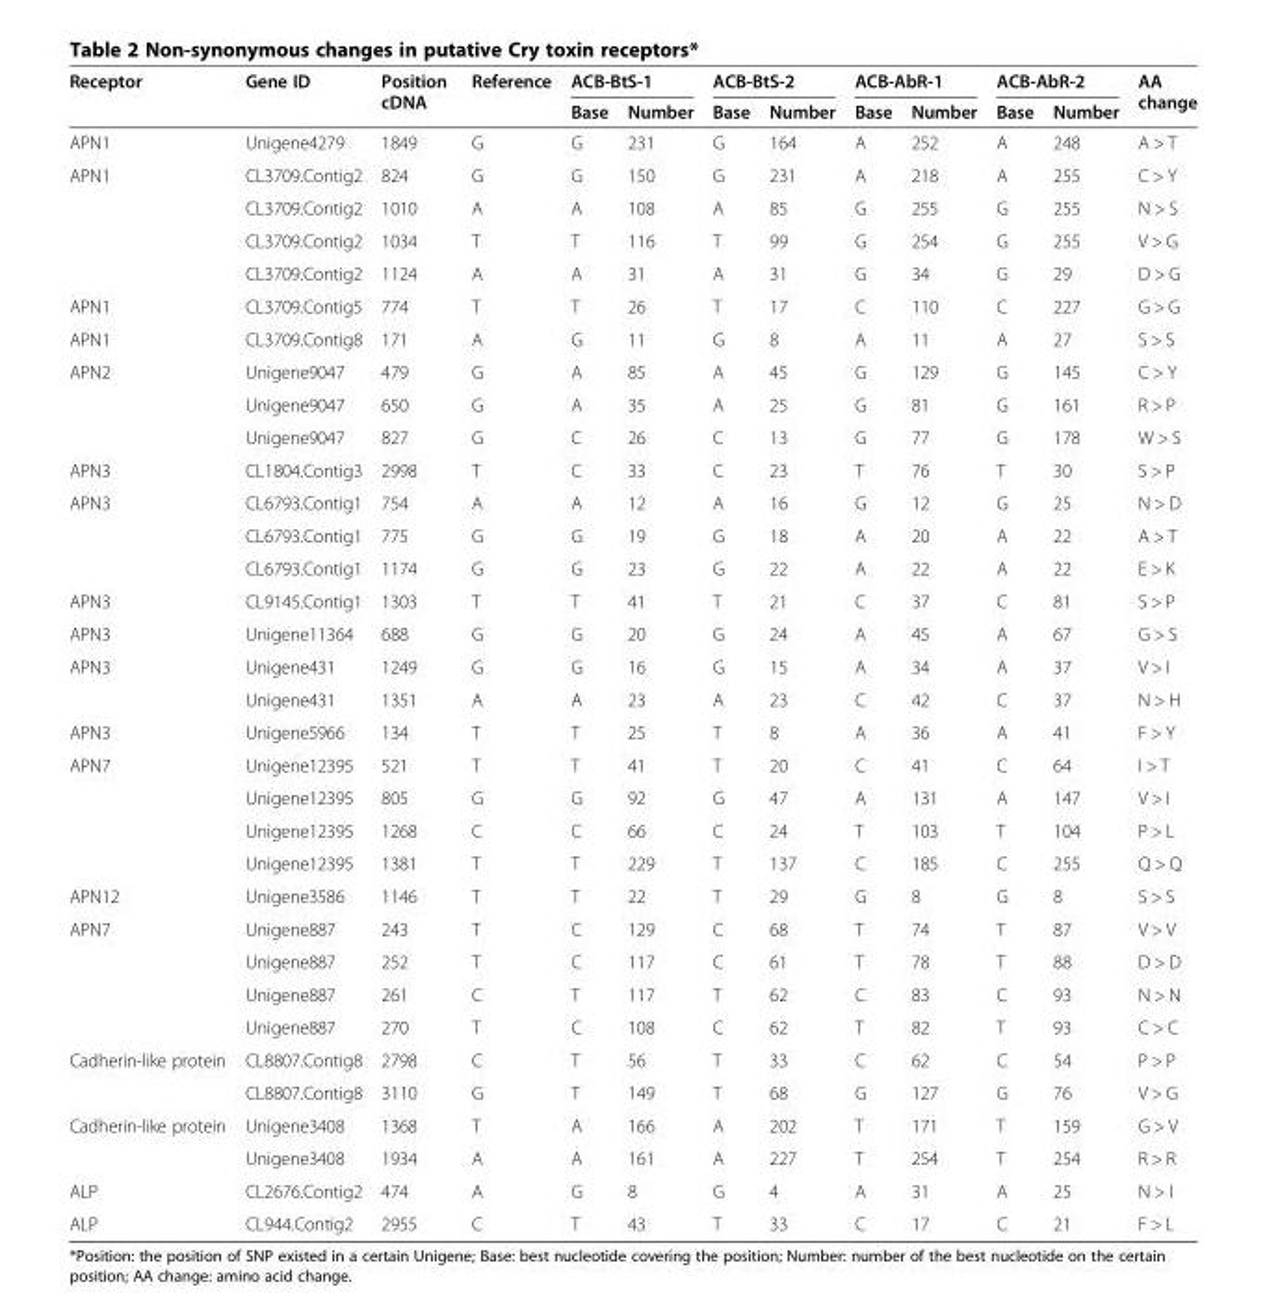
<table><thead><tr><td rowspan="2">Receptor</td><td rowspan="2">Gene ID</td><td rowspan="2">Position cDNA</td><td rowspan="2">Reference</td><td colspan="2">ACB-BtS-1</td><td colspan="2">ACB-BtS-2</td><td colspan="2">ACB-AbR-1</td><td colspan="2">ACB-AbR-2</td><td rowspan="2">AA change</td></tr><tr><td>Base</td><td>Number</td><td>Base</td><td>Number</td><td>Base</td><td>Number</td><td>Base</td><td>Number</td></tr></thead><tbody><tr><td>APN1</td><td>Unigene4279</td><td>1849</td><td>G</td><td>G</td><td>231</td><td>G</td><td>164</td><td>A</td><td>252</td><td>A</td><td>248</td><td>A &gt; T</td></tr><tr><td rowspan="4">APN1</td><td>CL3709.Contig2</td><td>824</td><td>G</td><td>G</td><td>150</td><td>G</td><td>231</td><td>A</td><td>218</td><td>A</td><td>255</td><td>C &gt; Y</td></tr><tr><td>CL3709.Contig2</td><td>1010</td><td>A</td><td>A</td><td>108</td><td>A</td><td>85</td><td>G</td><td>255</td><td>G</td><td>255</td><td>N &gt; S</td></tr><tr><td>CL3709.Contig2</td><td>1034</td><td>T</td><td>T</td><td>116</td><td>T</td><td>99</td><td>G</td><td>254</td><td>G</td><td>255</td><td>V &gt; G</td></tr><tr><td>CL3709.Contig2</td><td>1124</td><td>A</td><td>A</td><td>31</td><td>A</td><td>31</td><td>G</td><td>34</td><td>G</td><td>29</td><td>D &gt; G</td></tr><tr><td>APN1</td><td>CL3709.Contig5</td><td>774</td><td>T</td><td>T</td><td>26</td><td>T</td><td>17</td><td>C</td><td>110</td><td>C</td><td>227</td><td>G &gt; G</td></tr><tr><td>APN1</td><td>CL3709.Contig8</td><td>171</td><td>A</td><td>G</td><td>11</td><td>G</td><td>8</td><td>A</td><td>11</td><td>A</td><td>27</td><td>S &gt; S</td></tr><tr><td rowspan="3">APN2</td><td>Unigene9047</td><td>479</td><td>G</td><td>A</td><td>85</td><td>A</td><td>45</td><td>G</td><td>129</td><td>G</td><td>145</td><td>C &gt; Y</td></tr><tr><td>Unigene9047</td><td>650</td><td>G</td><td>A</td><td>35</td><td>A</td><td>25</td><td>G</td><td>81</td><td>G</td><td>161</td><td>R &gt; P</td></tr><tr><td>Unigene9047</td><td>827</td><td>G</td><td>C</td><td>26</td><td>C</td><td>13</td><td>G</td><td>77</td><td>G</td><td>178</td><td>W &gt; S</td></tr><tr><td>APN3</td><td>CL1804.Contig3</td><td>2998</td><td>T</td><td>C</td><td>33</td><td>C</td><td>23</td><td>T</td><td>76</td><td>T</td><td>30</td><td>S &gt; P</td></tr><tr><td rowspan="3">APN3</td><td>CL6793.Contig1</td><td>754</td><td>A</td><td>A</td><td>12</td><td>A</td><td>16</td><td>G</td><td>12</td><td>G</td><td>25</td><td>N &gt; D</td></tr><tr><td>CL6793.Contig1</td><td>775</td><td>G</td><td>G</td><td>19</td><td>G</td><td>18</td><td>A</td><td>20</td><td>A</td><td>22</td><td>A &gt; T</td></tr><tr><td>CL6793.Contig1</td><td>1174</td><td>G</td><td>G</td><td>23</td><td>G</td><td>22</td><td>A</td><td>22</td><td>A</td><td>22</td><td>E &gt; K</td></tr><tr><td>APN3</td><td>CL9145.Contig1</td><td>1303</td><td>T</td><td>T</td><td>41</td><td>T</td><td>21</td><td>C</td><td>37</td><td>C</td><td>81</td><td>S &gt; P</td></tr><tr><td>APN3</td><td>Unigene11364</td><td>688</td><td>G</td><td>G</td><td>20</td><td>G</td><td>24</td><td>A</td><td>45</td><td>A</td><td>67</td><td>G &gt; S</td></tr><tr><td rowspan="2">APN3</td><td>Unigene431</td><td>1249</td><td>G</td><td>G</td><td>16</td><td>G</td><td>15</td><td>A</td><td>34</td><td>A</td><td>37</td><td>V &gt; I</td></tr><tr><td>Unigene431</td><td>1351</td><td>A</td><td>A</td><td>23</td><td>A</td><td>23</td><td>C</td><td>42</td><td>C</td><td>37</td><td>N &gt; H</td></tr><tr><td>APN3</td><td>Unigene5966</td><td>134</td><td>T</td><td>T</td><td>25</td><td>T</td><td>8</td><td>A</td><td>36</td><td>A</td><td>41</td><td>F &gt; Y</td></tr><tr><td rowspan="4">APN7</td><td>Unigene12395</td><td>521</td><td>T</td><td>T</td><td>41</td><td>T</td><td>20</td><td>C</td><td>41</td><td>C</td><td>64</td><td>I &gt; T</td></tr><tr><td>Unigene12395</td><td>805</td><td>G</td><td>G</td><td>92</td><td>G</td><td>47</td><td>A</td><td>131</td><td>A</td><td>147</td><td>V &gt; I</td></tr><tr><td>Unigene12395</td><td>1268</td><td>C</td><td>C</td><td>66</td><td>C</td><td>24</td><td>T</td><td>103</td><td>T</td><td>104</td><td>P &gt; L</td></tr><tr><td>Unigene12395</td><td>1381</td><td>T</td><td>T</td><td>229</td><td>T</td><td>137</td><td>C</td><td>185</td><td>C</td><td>255</td><td>Q &gt; Q</td></tr><tr><td>APN12</td><td>Unigene3586</td><td>1146</td><td>T</td><td>T</td><td>22</td><td>T</td><td>29</td><td>G</td><td>8</td><td>G</td><td>8</td><td>S &gt; S</td></tr><tr><td rowspan="4">APN7</td><td>Unigene887</td><td>243</td><td>T</td><td>C</td><td>129</td><td>C</td><td>68</td><td>T</td><td>74</td><td>T</td><td>87</td><td>V &gt; V</td></tr><tr><td>Unigene887</td><td>252</td><td>T</td><td>C</td><td>117</td><td>C</td><td>61</td><td>T</td><td>78</td><td>T</td><td>88</td><td>D &gt; D</td></tr><tr><td>Unigene887</td><td>261</td><td>C</td><td>T</td><td>117</td><td>T</td><td>62</td><td>C</td><td>83</td><td>C</td><td>93</td><td>N &gt; N</td></tr><tr><td>Unigene887</td><td>270</td><td>T</td><td>C</td><td>108</td><td>C</td><td>62</td><td>T</td><td>82</td><td>T</td><td>93</td><td>C &gt; C</td></tr><tr><td rowspan="2">Cadherin-like protein</td><td>CL8807.Contig8</td><td>2798</td><td>C</td><td>T</td><td>56</td><td>T</td><td>33</td><td>C</td><td>62</td><td>C</td><td>54</td><td>P &gt; P</td></tr><tr><td>CL8807.Contig8</td><td>3110</td><td>G</td><td>T</td><td>149</td><td>T</td><td>68</td><td>G</td><td>127</td><td>G</td><td>76</td><td>V &gt; G</td></tr><tr><td rowspan="2">Cadherin-like protein</td><td>Unigene3408</td><td>1368</td><td>T</td><td>A</td><td>166</td><td>A</td><td>202</td><td>T</td><td>171</td><td>T</td><td>159</td><td>G &gt; V</td></tr><tr><td>Unigene3408</td><td>1934</td><td>A</td><td>A</td><td>161</td><td>A</td><td>227</td><td>T</td><td>254</td><td>T</td><td>254</td><td>R &gt; R</td></tr><tr><td>ALP</td><td>CL2676.Contig2</td><td>474</td><td>A</td><td>G</td><td>8</td><td>G</td><td>4</td><td>A</td><td>31</td><td>A</td><td>25</td><td>N &gt; I</td></tr><tr><td>ALP</td><td>CL944.Contig2</td><td>2955</td><td>C</td><td>T</td><td>43</td><td>T</td><td>33</td><td>C</td><td>17</td><td>C</td><td>21</td><td>F &gt; L</td></tr></tbody></table>